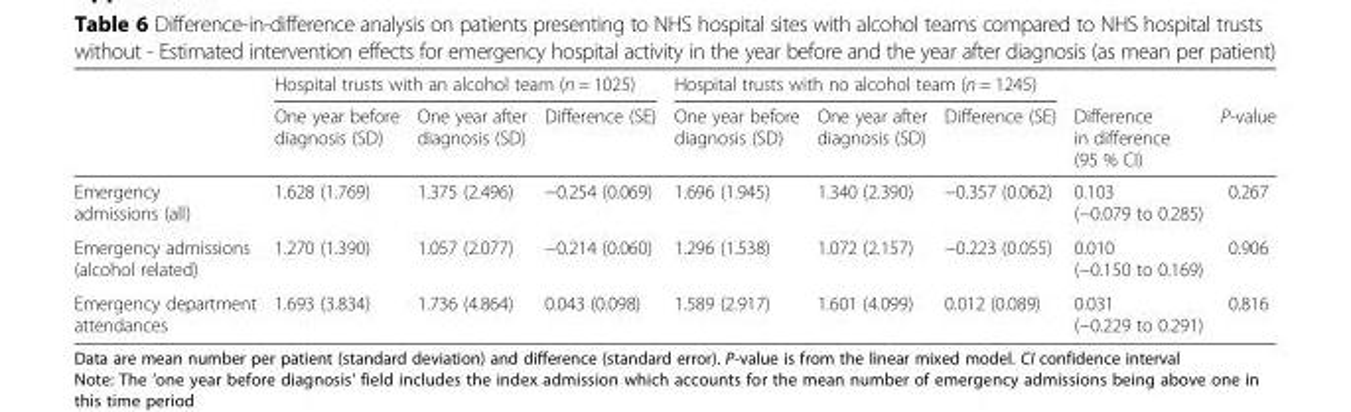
<table><thead><tr><td rowspan="2"></td><td colspan="3">Hospital trusts with an alcohol team (n = 1025)</td><td colspan="3">Hospital trusts with no alcohol team (n = 1245)</td><td rowspan="2">Difference in difference (95 % CI)</td><td rowspan="2">P-value</td></tr><tr><td>One year before diagnosis (SD)</td><td>One year after diagnosis (SD)</td><td>Difference (SE)</td><td>One year before diagnosis (SD)</td><td>One year after diagnosis (SD)</td><td>Difference (SE)</td></tr></thead><tbody><tr><td>Emergency admissions (all)</td><td>1.628 (1.769)</td><td>1.375 (2.496)</td><td>−0.254 (0.069)</td><td>1.696 (1.945)</td><td>1.340 (2.390)</td><td>−0.357 (0.062)</td><td>0.103 (−0.079 to 0.285)</td><td>0.267</td></tr><tr><td>Emergency admissions (alcohol related)</td><td>1.270 (1.390)</td><td>1.057 (2.077)</td><td>−0.214 (0.060)</td><td>1.296 (1.538)</td><td>1.072 (2.157)</td><td>−0.223 (0.055)</td><td>0.010 (−0.150 to 0.169)</td><td>0.906</td></tr><tr><td>Emergency department attendances</td><td>1.693 (3.834)</td><td>1.736 (4.864)</td><td>0.043 (0.098)</td><td>1.589 (2.917)</td><td>1.601 (4.099)</td><td>0.012 (0.089)</td><td>0.031 (−0.229 to 0.291)</td><td>0.816</td></tr></tbody></table>